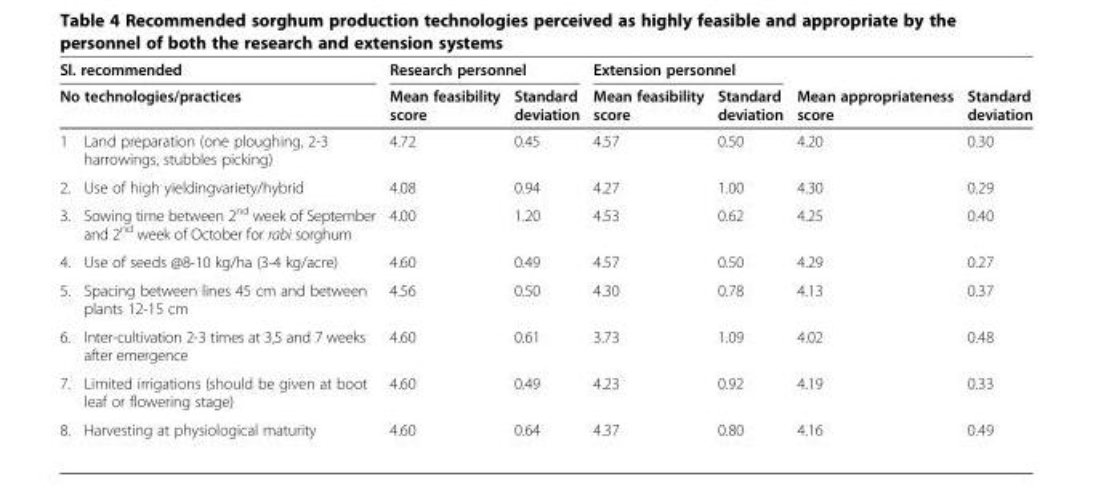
<table><thead><tr><td rowspan="2" colspan="2">Sl. recommended No technologies/practices</td><td colspan="2">Research personnel</td><td colspan="2">Extension personnel</td><td rowspan="3">Mean appropriateness score 4.20</td><td rowspan="3">Standard deviation 0.30</td></tr><tr><td rowspan="2">Mean feasibility score 4.72</td><td rowspan="2">Standard deviation 0.45</td><td rowspan="2">Mean feasibility score 4.57</td><td rowspan="2">Standard deviation 0.50</td></tr><tr><td>1</td><td>Land preparation (one ploughing, 2-3 harrowings, stubbles picking)</td></tr></thead><tbody><tr><td>2.</td><td>Use of high yieldingvariety/hybrid</td><td>4.08</td><td>0.94</td><td>4.27</td><td>1.00</td><td>4.30</td><td>0.29</td></tr><tr><td>3.</td><td>Sowing time between 2<sup>nd</sup> week of September and 2<sup>nd</sup> week of October for rabi sorghum</td><td>4.00</td><td>1.20</td><td>4.53</td><td>0.62</td><td>4.25</td><td>0.40</td></tr><tr><td>4.</td><td>Use of seeds @8-10 kg/ha (3-4 kg/acre)</td><td>4.60</td><td>0.49</td><td>4.57</td><td>0.50</td><td>4.29</td><td>0.27</td></tr><tr><td>5.</td><td>Spacing between lines 45 cm and between plants 12-15 cm</td><td>4.56</td><td>0.50</td><td>4.30</td><td>0.78</td><td>4.13</td><td>0.37</td></tr><tr><td>6.</td><td>Inter-cultivation 2-3 times at 3,5 and 7 weeks after emergence</td><td>4.60</td><td>0.61</td><td>3.73</td><td>1.09</td><td>4.02</td><td>0.48</td></tr><tr><td>7.</td><td>Limited irrigations (should be given at boot leaf or flowering stage)</td><td>4.60</td><td>0.49</td><td>4.23</td><td>0.92</td><td>4.19</td><td>0.33</td></tr><tr><td>8.</td><td>Harvesting at physiological maturity</td><td>4.60</td><td>0.64</td><td>4.37</td><td>0.80</td><td>4.16</td><td>0.49</td></tr></tbody></table>